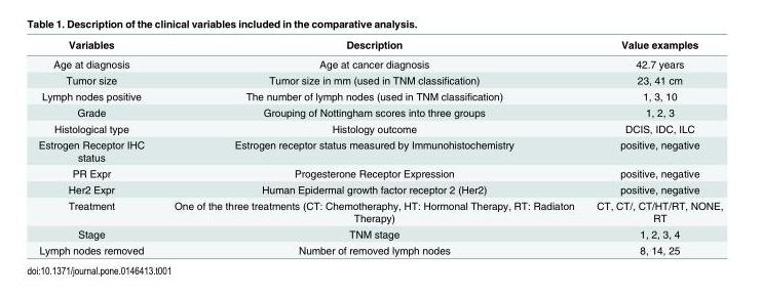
<table><thead><tr><td>Variables</td><td>Description</td><td>Value examples</td></tr></thead><tbody><tr><td>Age at diagnosis</td><td>Age at cancer diagnosis</td><td>42.7 years</td></tr><tr><td>Tumor size</td><td>Tumor size in mm (used in TNM classification)</td><td>23, 41 cm</td></tr><tr><td>Lymph nodes positive</td><td>The number of lymph nodes (used in TNM classification)</td><td>1, 3, 10</td></tr><tr><td>Grade</td><td>Grouping of Nottingham scores into three groups</td><td>1, 2, 3</td></tr><tr><td>Histological type</td><td>Histology outcome</td><td>DCIS, IDC, ILC</td></tr><tr><td>Estrogen Receptor IHC status</td><td>Estrogen receptor status measured by Immunohistochemistry</td><td>positive, negative</td></tr><tr><td>PR Expr</td><td>Progesterone Receptor Expression</td><td>positive, negative</td></tr><tr><td>Her2 Expr</td><td>Human Epidermal growth factor receptor 2 (Her2)</td><td>positive, negative</td></tr><tr><td>Treatment</td><td>One of the three treatments (CT: Chemotheraphy, HT: Hormonal Therapy, RT: Radiaton Therapy)</td><td>CT, CT/, CT/HT/RT, NONE, RT</td></tr><tr><td>Stage</td><td>TNM stage</td><td>1, 2, 3, 4</td></tr><tr><td>Lymph nodes removed</td><td>Number of removed lymph nodes</td><td>8, 14, 25</td></tr></tbody></table>